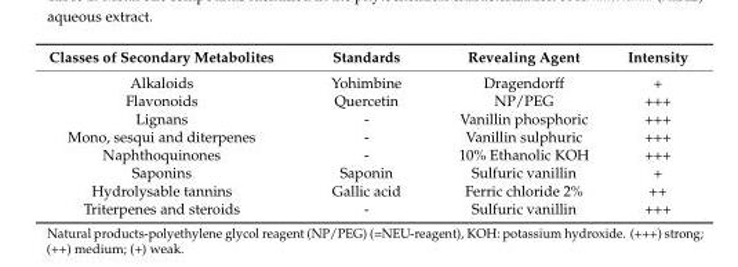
<table><thead><tr><td>Classes of Secondary Metabolites</td><td>Standards</td><td>Revealing Agent</td><td>Intensity</td></tr></thead><tbody><tr><td>Alkaloids</td><td>Yohimbine</td><td>Dragendorff</td><td>+</td></tr><tr><td>Flavonoids</td><td>Quercetin</td><td>NP/PEG</td><td>+++</td></tr><tr><td>Lignans</td><td>-</td><td>Vanillin phosphoric</td><td>+++</td></tr><tr><td>Mono, sesqui and diterpenes</td><td>-</td><td>Vanillin sulphuric</td><td>+++</td></tr><tr><td>Naphthoquinones</td><td>-</td><td>10% Ethanolic KOH</td><td>+++</td></tr><tr><td>Saponins</td><td>Saponin</td><td>Sulfuric vanillin</td><td>+</td></tr><tr><td>Hydrolysable tannins</td><td>Gallic acid</td><td>Ferric chloride 2%</td><td>++</td></tr><tr><td>Triterpenes and steroids</td><td>-</td><td>Sulfuric vanillin</td><td>+++</td></tr></tbody></table>